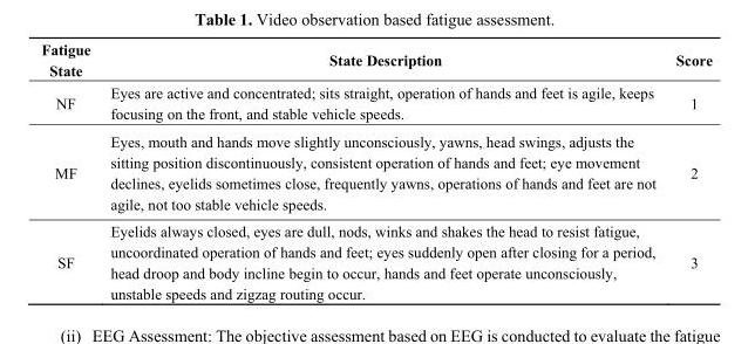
<table><thead><tr><td>Fatigue State</td><td>State Description</td><td>Score</td></tr></thead><tbody><tr><td>NF</td><td>Eyes are active and concentrated; sits straight, operation of hands and feet is agile, keeps focusing on the front, and stable vehicle speeds.</td><td>1</td></tr><tr><td>MF</td><td>Eyes, mouth and hands move slightly unconsciously, yawns, head swings, adjusts the sitting position discontinuously, consistent operation of hands and feet; eye movement declines, eyelids sometimes close, frequently yawns, operations of hands and feet are not agile, not too stable vehicle speeds.</td><td>2</td></tr><tr><td>SF</td><td>Eyelids always closed, eyes are dull, nods, winks and shakes the head to resist fatigue, uncoordinated operation of hands and feet; eyes suddenly open after closing for a period, head droop and body incline begin to occur, hands and feet operate unconsciously, unstable speeds and zigzag routing occur.</td><td>3</td></tr></tbody></table>